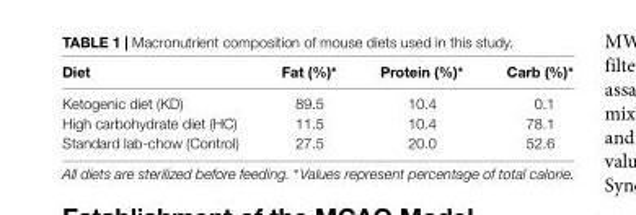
<table><thead><tr><td>Diet</td><td>Fat (%)∗</td><td>Protein (%)∗</td><td>Carb (%)∗</td></tr></thead><tbody><tr><td>Ketogenic diet (KD)</td><td>89.5</td><td>10.4</td><td>0.1</td></tr><tr><td>High carbohydrate diet (HC)</td><td>11.5</td><td>10.4</td><td>78.1</td></tr><tr><td>Standard lab-chow (Control)</td><td>27.5</td><td>20.0</td><td>52.6</td></tr></tbody></table>